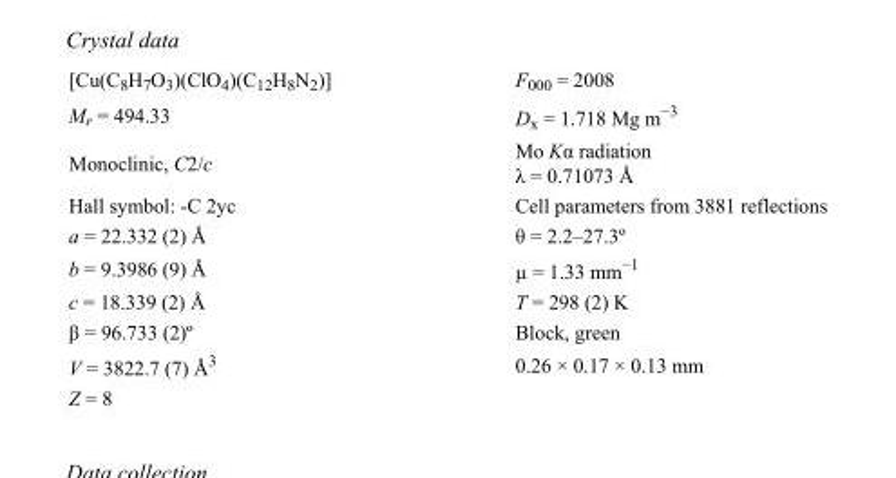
<table><tbody><tr><td>[Cu(C<sub>8</sub>H<sub>7</sub>O<sub>3</sub>)(ClO<sub>4</sub>)(C<sub>12</sub>H<sub>8</sub>N<sub>2</sub>)]</td><td>F<sub>000</sub> = 2008</td></tr><tr><td>M<sub>r</sub> = 494.33</td><td>D<sub>x</sub> = 1.718 Mg m<sup>−3</sup></td></tr><tr><td>Monoclinic, C2/c</td><td>Mo Kα radiation λ = 0.71073 Å</td></tr><tr><td>Hall symbol: -C 2yc</td><td>Cell parameters from 3881 reflections</td></tr><tr><td>a = 22.332 (2) Å</td><td>θ = 2.2–27.3º</td></tr><tr><td>b = 9.3986 (9) Å</td><td>µ = 1.33 mm<sup>−1</sup></td></tr><tr><td>c = 18.339 (2) Å</td><td>T = 298 (2) K</td></tr><tr><td>β = 96.733 (2)º</td><td>Block, green</td></tr><tr><td>V = 3822.7 (7) Å<sup>3</sup></td><td>0.26 × 0.17 × 0.13 mm</td></tr><tr><td>Z = 8</td><td></td></tr></tbody></table>